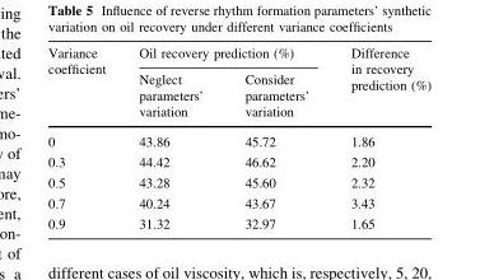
<table><thead><tr><td rowspan="2">Variance coefficient</td><td colspan="2">Oil recovery prediction (%)</td><td rowspan="2">Difference in recovery prediction (%)</td></tr><tr><td>Neglect parameters’ variation</td><td>Consider parameters’ variation</td></tr></thead><tbody><tr><td>0</td><td>43.86</td><td>45.72</td><td>1.86</td></tr><tr><td>0.3</td><td>44.42</td><td>46.62</td><td>2.20</td></tr><tr><td>0.5</td><td>43.28</td><td>45.60</td><td>2.32</td></tr><tr><td>0.7</td><td>40.24</td><td>43.67</td><td>3.43</td></tr><tr><td>0.9</td><td>31.32</td><td>32.97</td><td>1.65</td></tr></tbody></table>